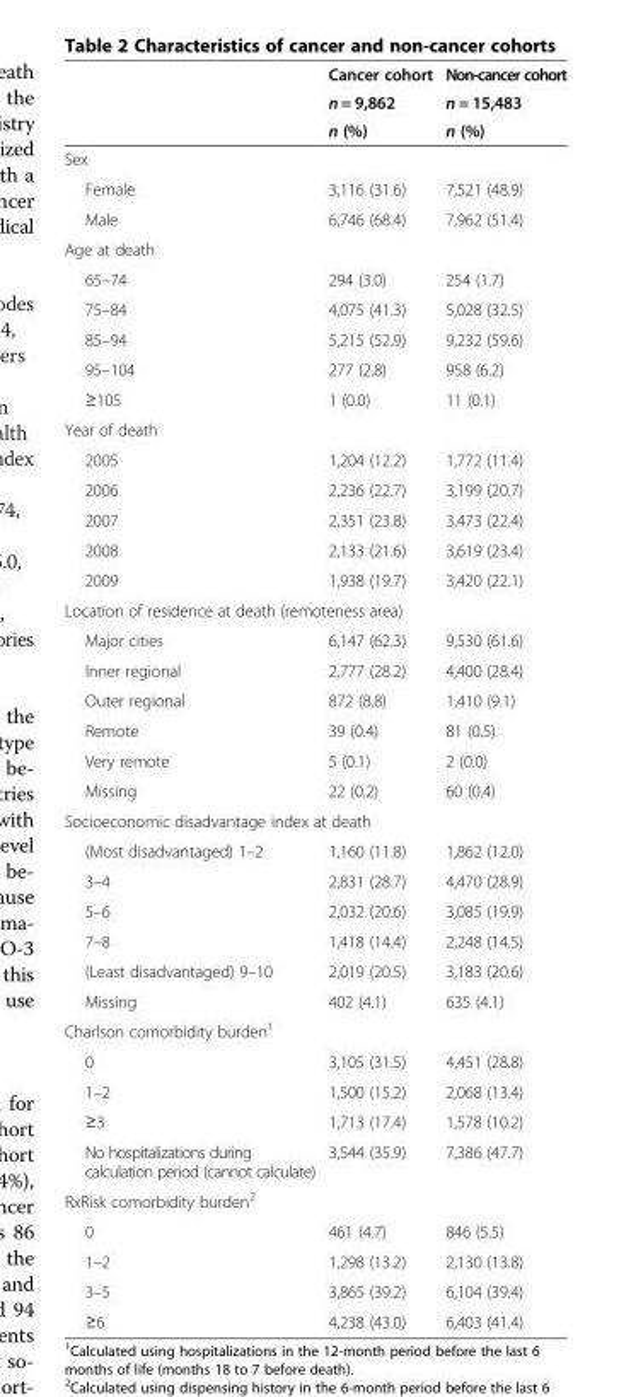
<table><thead><tr><td rowspan="3"></td><td rowspan="3">Cancer cohort n = 9,862 n (%)</td><td rowspan="3">Non-cancer cohort n = 15,483 n (%)</td></tr><tr></tr><tr></tr></thead><tbody><tr><td colspan="3">Sex</td></tr><tr><td>Female</td><td>3,116 (31.6)</td><td>7,521 (48.9)</td></tr><tr><td>Male</td><td>6,746 (68.4)</td><td>7,962 (51.4)</td></tr><tr><td colspan="3">Age at death</td></tr><tr><td>65–74</td><td>294 (3.0)</td><td>254 (1.7)</td></tr><tr><td>75–84</td><td>4,075 (41.3)</td><td>5,028 (32.5)</td></tr><tr><td>85–94</td><td>5,215 (52.9)</td><td>9,232 (59.6)</td></tr><tr><td>95–104</td><td>277 (2.8)</td><td>958 (6.2)</td></tr><tr><td>≥105</td><td>1 (0.0)</td><td>11 (0.1)</td></tr><tr><td colspan="3">Year of death</td></tr><tr><td>2005</td><td>1,204 (12.2)</td><td>1,772 (11.4)</td></tr><tr><td>2006</td><td>2,236 (22.7)</td><td>3,199 (20.7)</td></tr><tr><td>2007</td><td>2,351 (23.8)</td><td>3,473 (22.4)</td></tr><tr><td>2008</td><td>2,133 (21.6)</td><td>3,619 (23.4)</td></tr><tr><td>2009</td><td>1,938 (19.7)</td><td>3,420 (22.1)</td></tr><tr><td colspan="3">Location of residence at death (remoteness area)</td></tr><tr><td>Major cities</td><td>6,147 (62.3)</td><td>9,530 (61.6)</td></tr><tr><td>Inner regional</td><td>2,777 (28.2)</td><td>4,400 (28.4)</td></tr><tr><td>Outer regional</td><td>872 (8.8)</td><td>1,410 (9.1)</td></tr><tr><td>Remote</td><td>39 (0.4)</td><td>81 (0.5)</td></tr><tr><td>Very remote</td><td>5 (0.1)</td><td>2 (0.0)</td></tr><tr><td>Missing</td><td>22 (0.2)</td><td>60 (0.4)</td></tr><tr><td colspan="3">Socioeconomic disadvantage index at death</td></tr><tr><td>(Most disadvantaged) 1–2</td><td>1,160 (11.8)</td><td>1,862 (12.0)</td></tr><tr><td>3–4</td><td>2,831 (28.7)</td><td>4,470 (28.9)</td></tr><tr><td>5–6</td><td>2,032 (20.6)</td><td>3,085 (19.9)</td></tr><tr><td>7–8</td><td>1,418 (14.4)</td><td>2,248 (14.5)</td></tr><tr><td>(Least disadvantaged) 9–10</td><td>2,019 (20.5)</td><td>3,183 (20.6)</td></tr><tr><td>Missing</td><td>402 (4.1)</td><td>635 (4.1)</td></tr><tr><td colspan="3">Charlson comorbidity burden<sup>1</sup></td></tr><tr><td>0</td><td>3,105 (31.5)</td><td>4,451 (28.8)</td></tr><tr><td>1–2</td><td>1,500 (15.2)</td><td>2,068 (13.4)</td></tr><tr><td>≥3</td><td>1,713 (17.4)</td><td>1,578 (10.2)</td></tr><tr><td>No hospitalizations during calculation period (cannot calculate)</td><td>3,544 (35.9)</td><td>7,386 (47.7)</td></tr><tr><td colspan="3">RxRisk comorbidity burden<sup>2</sup></td></tr><tr><td>0</td><td>461 (4.7)</td><td>846 (5.5)</td></tr><tr><td>1–2</td><td>1,298 (13.2)</td><td>2,130 (13.8)</td></tr><tr><td>3–5</td><td>3,865 (39.2)</td><td>6,104 (39.4)</td></tr><tr><td>≥6</td><td>4,238 (43.0)</td><td>6,403 (41.4)</td></tr></tbody></table>